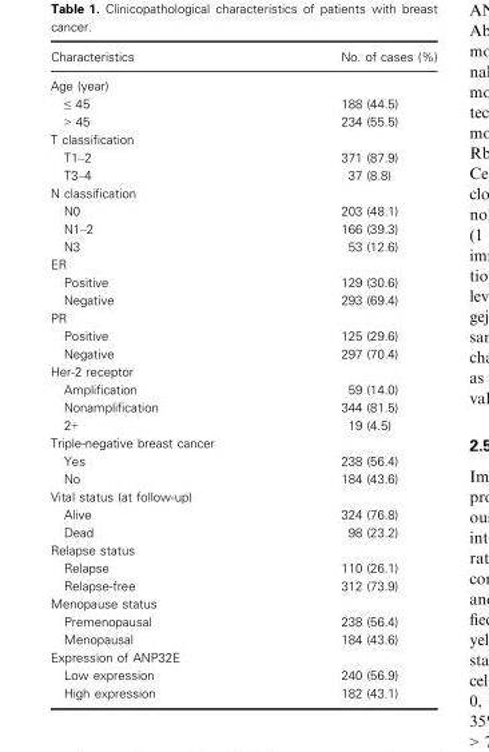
<table><thead><tr><td>Characteristics</td><td>No. of cases (%)</td></tr></thead><tbody><tr><td colspan="2">Age (year)</td></tr><tr><td>≤ 45</td><td>188 (44.5)</td></tr><tr><td>&gt; 45</td><td>234 (55.5)</td></tr><tr><td colspan="2">T classification</td></tr><tr><td>T1–2</td><td>371 (87.9)</td></tr><tr><td>T3–4</td><td>37 (8.8)</td></tr><tr><td colspan="2">N classification</td></tr><tr><td>N0</td><td>203 (48.1)</td></tr><tr><td>N1–2</td><td>166 (39.3)</td></tr><tr><td>N3</td><td>53 (12.6)</td></tr><tr><td colspan="2">ER</td></tr><tr><td>Positive</td><td>129 (30.6)</td></tr><tr><td>Negative</td><td>293 (69.4)</td></tr><tr><td colspan="2">PR</td></tr><tr><td>Positive</td><td>125 (29.6)</td></tr><tr><td>Negative</td><td>297 (70.4)</td></tr><tr><td colspan="2">Her-2 receptor</td></tr><tr><td>Amplification</td><td>59 (14.0)</td></tr><tr><td>Nonamplification</td><td>344 (81.5)</td></tr><tr><td>2+</td><td>19 (4.5)</td></tr><tr><td colspan="2">Triple-negative breast cancer</td></tr><tr><td>Yes</td><td>238 (56.4)</td></tr><tr><td>No</td><td>184 (43.6)</td></tr><tr><td colspan="2">Vital status (at follow-up)</td></tr><tr><td>Alive</td><td>324 (76.8)</td></tr><tr><td>Dead</td><td>98 (23.2)</td></tr><tr><td colspan="2">Relapse status</td></tr><tr><td>Relapse</td><td>110 (26.1)</td></tr><tr><td>Relapse-free</td><td>312 (73.9)</td></tr><tr><td colspan="2">Menopause status</td></tr><tr><td>Premenopausal</td><td>238 (56.4)</td></tr><tr><td>Menopausal</td><td>184 (43.6)</td></tr><tr><td colspan="2">Expression of ANP32E</td></tr><tr><td>Low expression</td><td>240 (56.9)</td></tr><tr><td>High expression</td><td>182 (43.1)</td></tr></tbody></table>